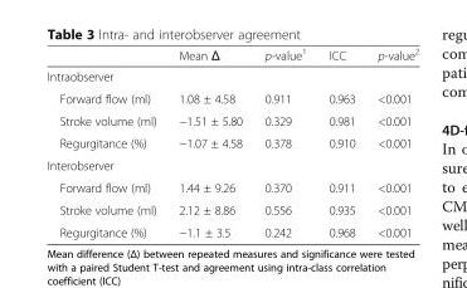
<table><thead><tr><td></td><td>Mean Δ</td><td>p-value<sup>1</sup></td><td>ICC</td><td>p-value<sup>2</sup></td></tr></thead><tbody><tr><td colspan="5">Intraobserver</td></tr><tr><td>Forward flow (ml)</td><td>1.08 ± 4.58</td><td>0.911</td><td>0.963</td><td>&lt;0.001</td></tr><tr><td>Stroke volume (ml)</td><td>−1.51 ± 5.80</td><td>0.329</td><td>0.981</td><td>&lt;0.001</td></tr><tr><td>Regurgitance (%)</td><td>−1.07 ± 4.58</td><td>0.378</td><td>0.910</td><td>&lt;0.001</td></tr><tr><td colspan="5">Interobserver</td></tr><tr><td>Forward flow (ml)</td><td>1.44 ± 9.26</td><td>0.370</td><td>0.911</td><td>&lt;0.001</td></tr><tr><td>Stroke volume (ml)</td><td>2.12 ± 8.86</td><td>0.556</td><td>0.935</td><td>&lt;0.001</td></tr><tr><td>Regurgitance (%)</td><td>−1.1 ± 3.5</td><td>0.242</td><td>0.968</td><td>&lt;0.001</td></tr></tbody></table>